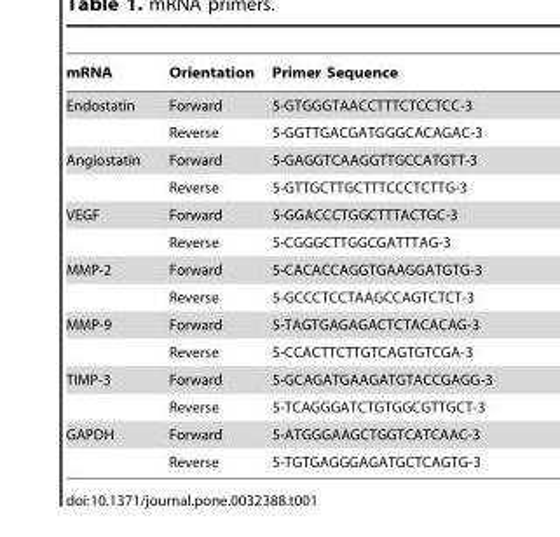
<table><thead><tr><td>mRNA</td><td>Orientation</td><td>Primer Sequence</td></tr></thead><tbody><tr><td rowspan="2">Endostatin</td><td>Forward</td><td>5-GTGGGTAACCTTTCTCCTCC-3</td></tr><tr><td>Reverse</td><td>5-GGTTGACGATGGGCACAGAC-3</td></tr><tr><td rowspan="2">Angiostatin</td><td>Forward</td><td>5-GAGGTCAAGGTTGCCATGTT-3</td></tr><tr><td>Reverse</td><td>5-GTTGCTTGCTTTCCCTCTTG-3</td></tr><tr><td rowspan="2">VEGF</td><td>Forward</td><td>5-GGACCCTGGCTTTACTGC-3</td></tr><tr><td>Reverse</td><td>5-CGGGCTTGGCGATTTAG-3</td></tr><tr><td rowspan="2">MMP-2</td><td>Forward</td><td>5-CACACCAGGTGAAGGATGTG-3</td></tr><tr><td>Reverse</td><td>5-GCCCTCCTAAGCCAGTCTCT-3</td></tr><tr><td rowspan="2">MMP-9</td><td>Forward</td><td>5-TAGTGAGAGACTCTACACAG-3</td></tr><tr><td>Reverse</td><td>5-CCACTTCTTGTCAGTGTCGA-3</td></tr><tr><td rowspan="2">TIMP-3</td><td>Forward</td><td>5-GCAGATGAAGATGTACCGAGG-3</td></tr><tr><td>Reverse</td><td>5-TCAGGGATCTGTGGCGTTGCT-3</td></tr><tr><td rowspan="2">GAPDH</td><td>Forward</td><td>5-ATGGGAAGCTGGTCATCAAC-3</td></tr><tr><td>Reverse</td><td>5-TGTGAGGGAGATGCTCAGTG-3</td></tr></tbody></table>